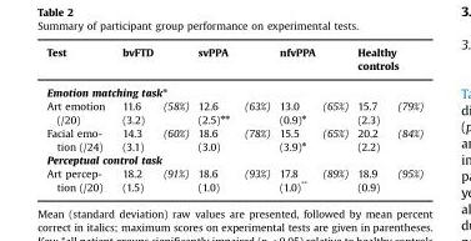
<table><thead><tr><td>Test</td><td colspan="2">bvFTD</td><td colspan="2">svPPA</td><td colspan="2">nfvPPA</td><td colspan="2">Healthy controls</td></tr><tr><td colspan="9">Emotion matching task<sup>⁎</sup></td></tr><tr><td>Art emotion (/20)</td><td>11.6 (3.2)</td><td>(58%)</td><td>12.6 (2.5)<sup>⁎⁎</sup></td><td>(63%)</td><td>13.0 (0.9)<sup>⁎</sup></td><td>(65%)</td><td>15.7 (2.3)</td><td>(79%)</td></tr></thead><tbody><tr><td>Facial emo- tion (/24)</td><td>14.3 (3.1)</td><td>(60%)</td><td>18.6 (3.0)</td><td>(78%)</td><td>15.5 (3.9)<sup>⁎</sup></td><td>(65%)</td><td>20.2 (2.2)</td><td>(84%)</td></tr><tr><td colspan="9">Perceptual control task</td></tr><tr><td>Art percep- tion (/20)</td><td>18.2 (1.5)</td><td>(91%)</td><td>18.6 (1.0)</td><td>(93%)</td><td>17.8 (1.0)**</td><td>(89%)</td><td>18.9 (0.9)</td><td>(95%)</td></tr></tbody></table>